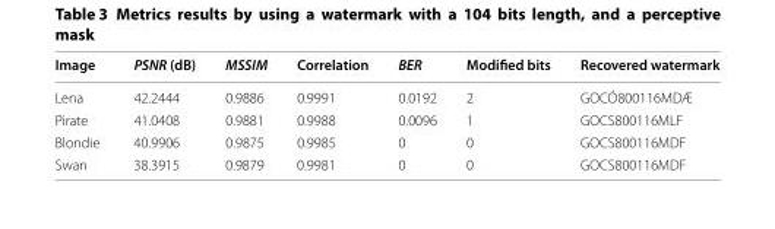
<table><thead><tr><td>Image</td><td>PSNR (dB)</td><td>MSSIM</td><td>Correlation</td><td>BER</td><td>Modified bits</td><td>Recovered watermark</td></tr></thead><tbody><tr><td>Lena</td><td>42.2444</td><td>0.9886</td><td>0.9991</td><td>0.0192</td><td>2</td><td>GOCÓ800116MDÆ</td></tr><tr><td>Pirate</td><td>41.0408</td><td>0.9881</td><td>0.9988</td><td>0.0096</td><td>1</td><td>GOCS800116MLF</td></tr><tr><td>Blondie</td><td>40.9906</td><td>0.9875</td><td>0.9985</td><td>0</td><td>0</td><td>GOCS800116MDF</td></tr><tr><td>Swan</td><td>38.3915</td><td>0.9879</td><td>0.9981</td><td>0</td><td>0</td><td>GOCS800116MDF</td></tr></tbody></table>